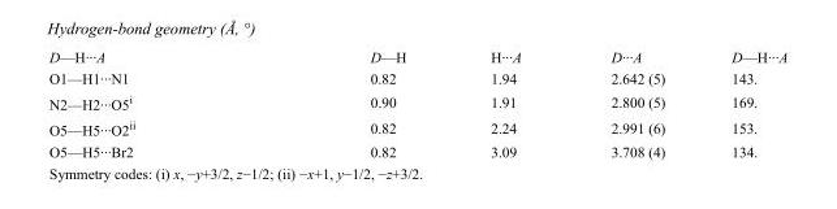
<table><tbody><tr><td>D—H···A</td><td>D—H</td><td>H···A</td><td>D···A</td><td>D—H···A</td></tr><tr><td>O1—H1···N1</td><td>0.82</td><td>1.94</td><td>2.642 (5)</td><td>143.</td></tr><tr><td>N2—H2···O5<sup>i</sup></td><td>0.90</td><td>1.91</td><td>2.800 (5)</td><td>169.</td></tr><tr><td>O5—H5···O2<sup>ii</sup></td><td>0.82</td><td>2.24</td><td>2.991 (6)</td><td>153.</td></tr><tr><td>O5—H5···Br2</td><td>0.82</td><td>3.09</td><td>3.708 (4)</td><td>134.</td></tr></tbody></table>